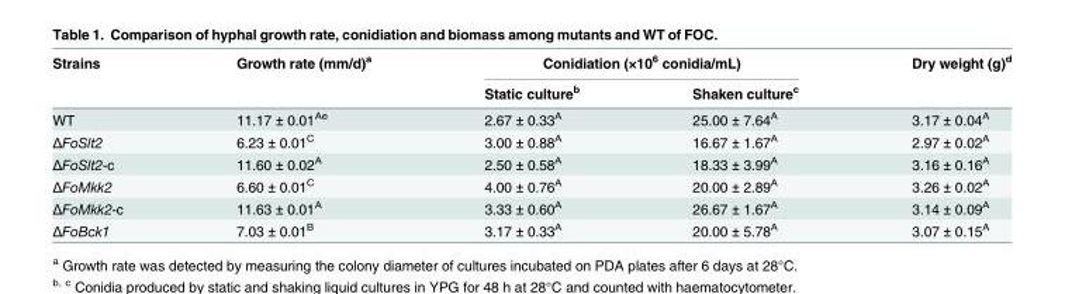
<table><thead><tr><td rowspan="2">Strains</td><td rowspan="2">Growth rate (mm/d)<sup>a</sup></td><td colspan="2">Conidiation (×10<sup>6</sup> conidia/mL)</td><td rowspan="2">Dry weight (g)<sup>d</sup></td></tr><tr><td>Static culture<sup>b</sup></td><td>Shaken culture<sup>c</sup></td></tr></thead><tbody><tr><td>WT</td><td>11.17 ± 0.01<sup>Ae</sup></td><td>2.67 ± 0.33<sup>A</sup></td><td>25.00 ± 7.64<sup>A</sup></td><td>3.17 ± 0.04<sup>A</sup></td></tr><tr><td>ΔFoSlt2</td><td>6.23 ± 0.01<sup>C</sup></td><td>3.00 ± 0.88<sup>A</sup></td><td>16.67 ± 1.67<sup>A</sup></td><td>2.97 ± 0.02<sup>A</sup></td></tr><tr><td>ΔFoSlt2-c</td><td>11.60 ± 0.02<sup>A</sup></td><td>2.50 ± 0.58<sup>A</sup></td><td>18.33 ± 3.99<sup>A</sup></td><td>3.16 ± 0.16<sup>A</sup></td></tr><tr><td>ΔFoMkk2</td><td>6.60 ± 0.01<sup>C</sup></td><td>4.00 ± 0.76<sup>A</sup></td><td>20.00 ± 2.89<sup>A</sup></td><td>3.26 ± 0.02<sup>A</sup></td></tr><tr><td>ΔFoMkk2-c</td><td>11.63 ± 0.01<sup>A</sup></td><td>3.33 ± 0.60<sup>A</sup></td><td>26.67 ± 1.67<sup>A</sup></td><td>3.14 ± 0.09<sup>A</sup></td></tr><tr><td>ΔFoBck1</td><td>7.03 ± 0.01<sup>B</sup></td><td>3.17 ± 0.33<sup>A</sup></td><td>20.00 ± 5.78<sup>A</sup></td><td>3.07 ± 0.15<sup>A</sup></td></tr></tbody></table>